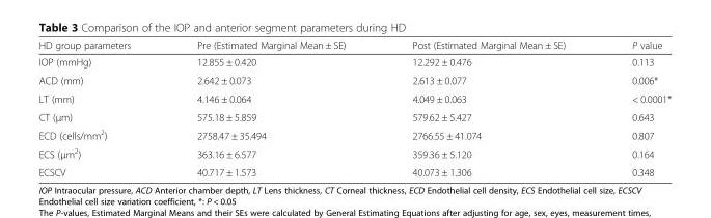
<table><thead><tr><td>HD group parameters</td><td>Pre (Estimated Marginal Mean ± SE)</td><td>Post (Estimated Marginal Mean ± SE)</td><td>P value</td></tr></thead><tbody><tr><td>IOP (mmHg)</td><td>12.855 ± 0.420</td><td>12.292 ± 0.476</td><td>0.113</td></tr><tr><td>ACD (mm)</td><td>2.642 ± 0.073</td><td>2.613 ± 0.077</td><td>0.006*</td></tr><tr><td>LT (mm)</td><td>4.146 ± 0.064</td><td>4.049 ± 0.063</td><td>&lt; 0.0001*</td></tr><tr><td>CT (μm)</td><td>575.18 ± 5.859</td><td>579.62 ± 5.427</td><td>0.643</td></tr><tr><td>ECD (cells/mm<sup>2</sup>)</td><td>2758.47 ± 35.494</td><td>2766.55 ± 41.074</td><td>0.807</td></tr><tr><td>ECS (μm<sup>2</sup>)</td><td>363.16 ± 6.577</td><td>359.36 ± 5.120</td><td>0.164</td></tr><tr><td>ECSCV</td><td>40.717 ± 1.573</td><td>40.073 ± 1.306</td><td>0.348</td></tr></tbody></table>